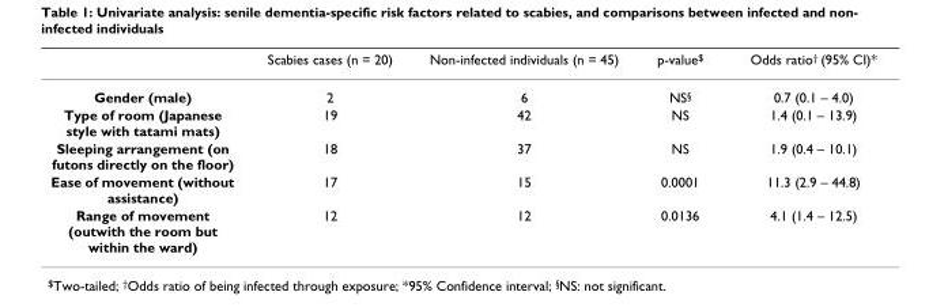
<table><thead><tr><td></td><td>Scabies cases (n = 20)</td><td>Non-infected individuals (n = 45)</td><td>p-value<sup>$</sup></td><td>Odds ratio<sup>†</sup> (95% CI)*</td></tr></thead><tbody><tr><td>Gender (male)</td><td>2</td><td>6</td><td>NS<sup>§</sup></td><td>0.7 (0.1 – 4.0)</td></tr><tr><td>Type of room (Japanese style with tatami mats)</td><td>19</td><td>42</td><td>NS</td><td>1.4 (0.1 – 13.9)</td></tr><tr><td>Sleeping arrangement (on futons directly on the floor)</td><td>18</td><td>37</td><td>NS</td><td>1.9 (0.4 – 10.1)</td></tr><tr><td>Ease of movement (without assistance)</td><td>17</td><td>15</td><td>0.0001</td><td>11.3 (2.9 – 44.8)</td></tr><tr><td>Range of movement (outwith the room but within the ward)</td><td>12</td><td>12</td><td>0.0136</td><td>4.1 (1.4 – 12.5)</td></tr></tbody></table>